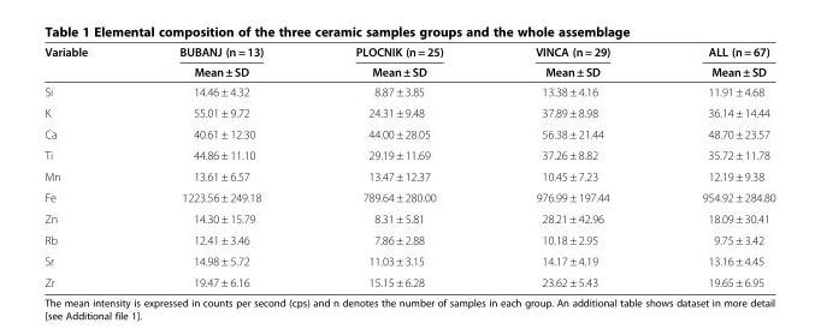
<table><thead><tr><td rowspan="2">Variable</td><td rowspan="2">BUBANJ (n = 13) Mean ± SD</td><td rowspan="2">PLOCNIK (n = 25) Mean ± SD</td><td rowspan="2">VINCA (n = 29) Mean ± SD</td><td rowspan="2">ALL (n = 67) Mean ± SD</td></tr><tr></tr></thead><tbody><tr><td>Si</td><td>14.46 ± 4.32</td><td>8.87 ± 3.85</td><td>13.38 ± 4.16</td><td>11.91 ± 4.68</td></tr><tr><td>K</td><td>55.01 ± 9.72</td><td>24.31 ± 9.48</td><td>37.89 ± 8.98</td><td>36.14 ± 14.44</td></tr><tr><td>Ca</td><td>40.61 ± 12.30</td><td>44.00 ± 28.05</td><td>56.38 ± 21.44</td><td>48.70 ± 23.57</td></tr><tr><td>Ti</td><td>44.86 ± 11.10</td><td>29.19 ± 11.69</td><td>37.26 ± 8.82</td><td>35.72 ± 11.78</td></tr><tr><td>Mn</td><td>13.61 ± 6.57</td><td>13.47 ± 12.37</td><td>10.45 ± 7.23</td><td>12.19 ± 9.38</td></tr><tr><td>Fe</td><td>1223.56 ± 249.18</td><td>789.64 ± 280.00</td><td>976.99 ± 197.44</td><td>954.92 ± 284.80</td></tr><tr><td>Zn</td><td>14.30 ± 15.79</td><td>8.31 ± 5.81</td><td>28.21 ± 42.96</td><td>18.09 ± 30.41</td></tr><tr><td>Rb</td><td>12.41 ± 3.46</td><td>7.86 ± 2.88</td><td>10.18 ± 2.95</td><td>9.75 ± 3.42</td></tr><tr><td>Sr</td><td>14.98 ± 5.72</td><td>11.03 ± 3.15</td><td>14.17 ± 4.19</td><td>13.16 ± 4.45</td></tr><tr><td>Zr</td><td>19.47 ± 6.16</td><td>15.15 ± 6.28</td><td>23.62 ± 5.43</td><td>19.65 ± 6.95</td></tr></tbody></table>